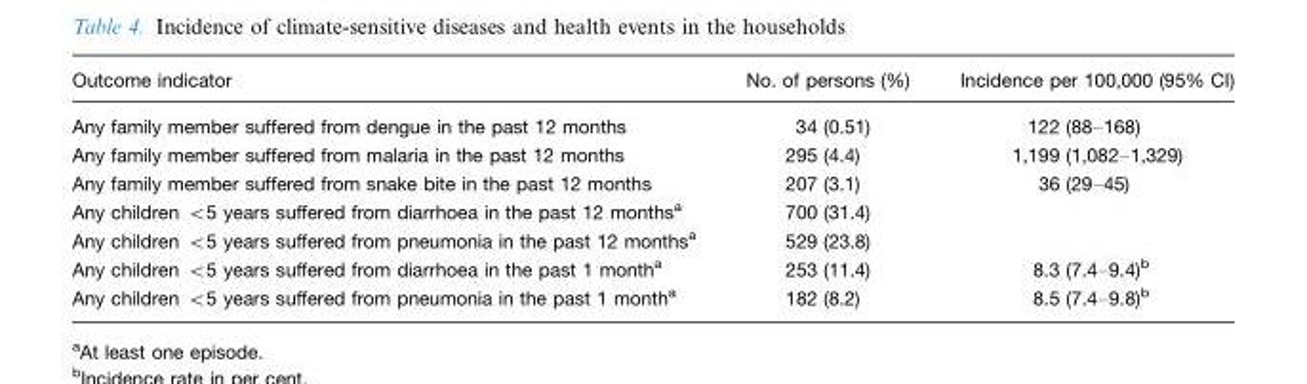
<table><thead><tr><td>Outcome indicator</td><td>No. of persons (%)</td><td>Incidence per 100,000 (95% CI)</td></tr></thead><tbody><tr><td>Any family member suffered from dengue in the past 12 months</td><td>34 (0.51)</td><td>122 (88–168)</td></tr><tr><td>Any family member suffered from malaria in the past 12 months</td><td>295 (4.4)</td><td>1,199 (1,082–1,329)</td></tr><tr><td>Any family member suffered from snake bite in the past 12 months</td><td>207 (3.1)</td><td>36 (29–45)</td></tr><tr><td>Any children &lt;5 years suffered from diarrhoea in the past 12 months<sup>a</sup></td><td>700 (31.4)</td><td></td></tr><tr><td>Any children &lt;5 years suffered from pneumonia in the past 12 months<sup>a</sup></td><td>529 (23.8)</td><td></td></tr><tr><td>Any children &lt;5 years suffered from diarrhoea in the past 1 month<sup>a</sup></td><td>253 (11.4)</td><td>8.3 (7.4–9.4)<sup>b</sup></td></tr><tr><td>Any children &lt;5 years suffered from pneumonia in the past 1 month<sup>a</sup></td><td>182 (8.2)</td><td>8.5 (7.4–9.8)<sup>b</sup></td></tr></tbody></table>